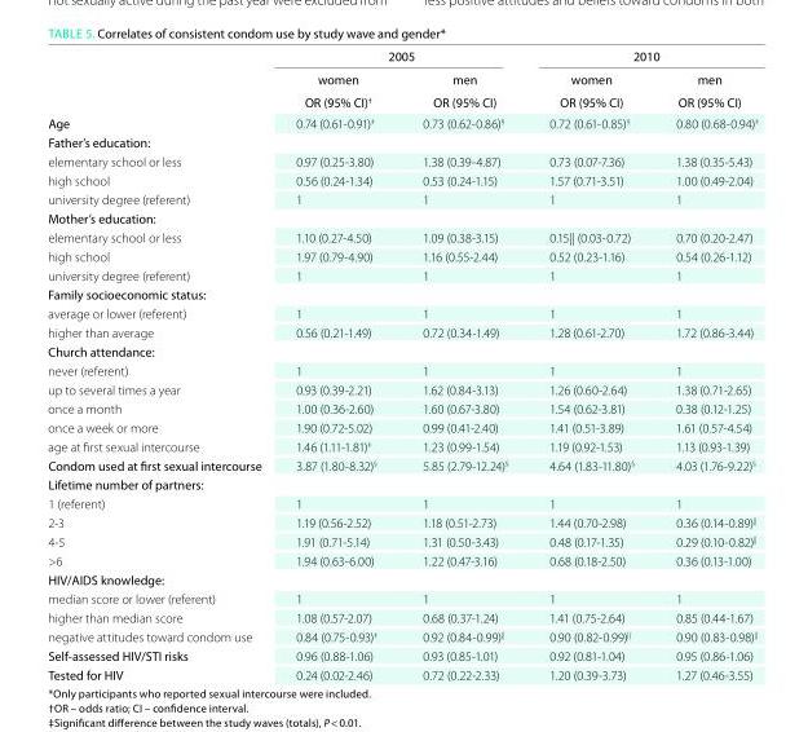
<table><thead><tr><td rowspan="3"></td><td colspan="2">2005</td><td colspan="2">2010</td></tr><tr><td rowspan="2">women oR (95% CI)<sup>†</sup></td><td rowspan="2">men oR (95% CI)</td><td rowspan="2">women oR (95% CI)</td><td rowspan="2">men oR (95% CI)</td></tr><tr></tr></thead><tbody><tr><td>Age</td><td>0.74 (0.61-0.91)<sup>‡</sup></td><td>0.73 (0.62-0.86)<sup>§</sup></td><td>0.72 (0.61-0.85)<sup>§</sup></td><td>0.80 (0.68-0.94)<sup>‡</sup></td></tr><tr><td colspan="5">Father’s education:</td></tr><tr><td>elementary school or less</td><td>0.97 (0.25-3.80)</td><td>1.38 (0.39-4.87)</td><td>0.73 (0.07-7.36)</td><td>1.38 (0.35-5.43)</td></tr><tr><td>high school</td><td>0.56 (0.24-1.34)</td><td>0.53 (0.24-1.15)</td><td>1.57 (0.71-3.51)</td><td>1.00 (0.49-2.04)</td></tr><tr><td>university degree (referent)</td><td>1</td><td>1</td><td>1</td><td>1</td></tr><tr><td colspan="5">Mother’s education:</td></tr><tr><td>elementary school or less</td><td>1.10 (0.27-4.50)</td><td>1.09 (0.38-3.15)</td><td>0.15<sup>||</sup> (0.03-0.72)</td><td>0.70 (0.20-2.47)</td></tr><tr><td>high school</td><td>1.97 (0.79-4.90)</td><td>1.16 (0.55-2.44)</td><td>0.52 (0.23-1.16)</td><td>0.54 (0.26-1.12)</td></tr><tr><td>university degree (referent)</td><td>1</td><td>1</td><td>1</td><td>1</td></tr><tr><td colspan="5">Family socioeconomic status:</td></tr><tr><td>average or lower (referent)</td><td>1</td><td>1</td><td>1</td><td>1</td></tr><tr><td>higher than average</td><td>0.56 (0.21-1.49)</td><td>0.72 (0.34-1.49)</td><td>1.28 (0.61-2.70)</td><td>1.72 (0.86-3.44)</td></tr><tr><td colspan="5">Church attendance:</td></tr><tr><td>never (referent)</td><td>1</td><td>1</td><td>1</td><td>1</td></tr><tr><td>up to several times a year</td><td>0.93 (0.39-2.21)</td><td>1.62 (0.84-3.13)</td><td>1.26 (0.60-2.64)</td><td>1.38 (0.71-2.65)</td></tr><tr><td>once a month</td><td>1.00 (0.36-2.60)</td><td>1.60 (0.67-3.80)</td><td>1.54 (0.62-3.81)</td><td>0.38 (0.12-1.25)</td></tr><tr><td>once a week or more</td><td>1.90 (0.72-5.02)</td><td>0.99 (0.41-2.40)</td><td>1.41 (0.51-3.89)</td><td>1.61 (0.57-4.54)</td></tr><tr><td>age at first sexual intercourse</td><td>1.46 (1.11-1.81)<sup>‡</sup></td><td>1.23 (0.99-1.54)</td><td>1.19 (0.92-1.53)</td><td>1.13 (0.93-1.39)</td></tr><tr><td>Condom used at first sexual intercourse</td><td>3.87 (1.80-8.32)<sup>§</sup></td><td>5.85 (2.79-12.24)<sup>§</sup></td><td>4.64 (1.83-11.80)<sup>§</sup></td><td>4.03 (1.76-9.22)<sup>§</sup></td></tr><tr><td colspan="5">Lifetime number of partners:</td></tr><tr><td>1 (referent)</td><td>1</td><td>1</td><td>1</td><td>1</td></tr><tr><td>2-3</td><td>1.19 (0.56-2.52)</td><td>1.18 (0.51-2.73)</td><td>1.44 (0.70-2.98)</td><td>0.36 (0.14-0.89)<sup>||</sup></td></tr><tr><td>4-5</td><td>1.91 (0.71-5.14)</td><td>1.31 (0.50-3.43)</td><td>0.48 (0.17-1.35)</td><td>0.29 (0.10-0.82)<sup>||</sup></td></tr><tr><td>&gt;6</td><td>1.94 (0.63-6.00)</td><td>1.22 (0.47-3.16)</td><td>0.68 (0.18-2.50)</td><td>0.36 (0.13-1.00)</td></tr><tr><td colspan="5">hIV/AIdS knowledge:</td></tr><tr><td>median score or lower (referent)</td><td>1</td><td>1</td><td>1</td><td>1</td></tr><tr><td>higher than median score</td><td>1.08 (0.57-2.07)</td><td>0.68 (0.37-1.24)</td><td>1.41 (0.75-2.64)</td><td>0.85 (0.44-1.67)</td></tr><tr><td>negative attitudes toward condom use</td><td>0.84 (0.75-0.93)<sup>‡</sup></td><td>0.92 (0.84-0.99)<sup>||</sup></td><td>0.90 (0.82-0.99)<sup>||</sup></td><td>0.90 (0.83-0.98)<sup>||</sup></td></tr><tr><td>Self-assessed hIV/StI risks</td><td>0.96 (0.88-1.06)</td><td>0.93 (0.85-1.01)</td><td>0.92 (0.81-1.04)</td><td>0.95 (0.86-1.06)</td></tr><tr><td>tested for hIV</td><td>0.24 (0.02-2.46)</td><td>0.72 (0.22-2.33)</td><td>1.20 (0.39-3.73)</td><td>1.27 (0.46-3.55)</td></tr></tbody></table>